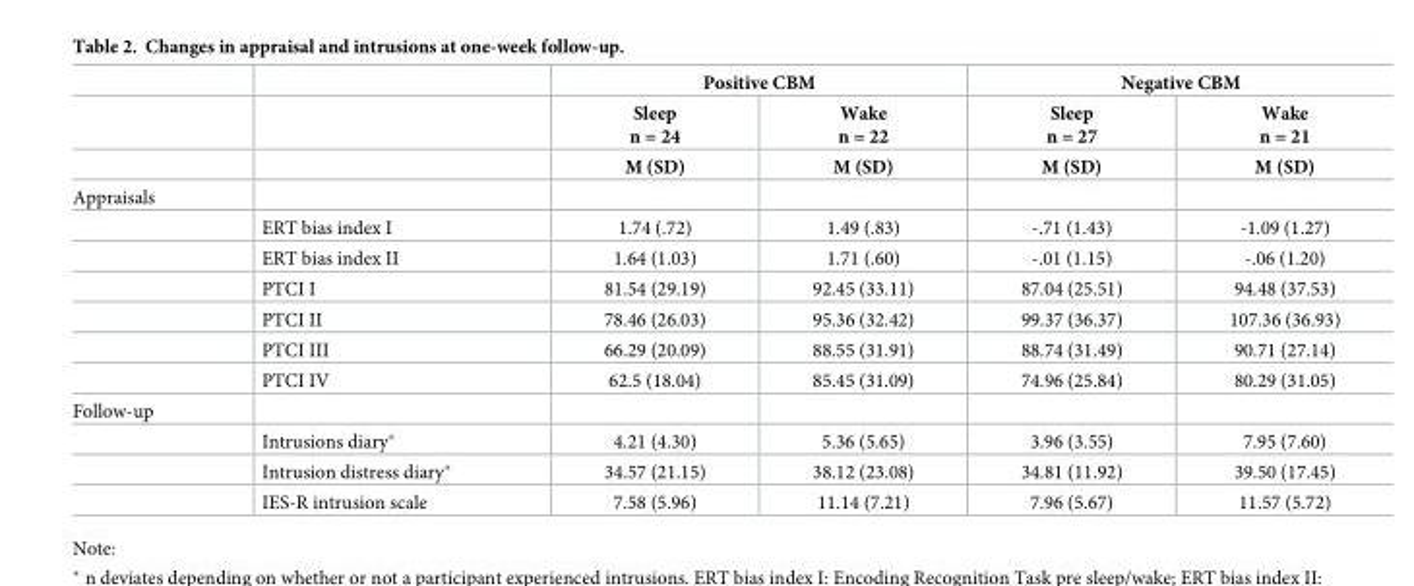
<table><thead><tr><td rowspan="3"></td><td rowspan="3"></td><td colspan="2">Positive CBM</td><td colspan="2">Negative CBM</td></tr><tr><td rowspan="2">Sleep n = 24 M (SD)</td><td rowspan="2">Wake n = 22 M (SD)</td><td rowspan="2">Sleep n = 27 M (SD)</td><td rowspan="2">Wake n = 21 M (SD)</td></tr><tr></tr></thead><tbody><tr><td colspan="6">Appraisals</td></tr><tr><td></td><td>ERT bias index I</td><td>1.74 (.72)</td><td>1.49 (.83)</td><td>-.71 (1.43)</td><td>-1.09 (1.27)</td></tr><tr><td></td><td>ERT bias index II</td><td>1.64 (1.03)</td><td>1.71 (.60)</td><td>-.01 (1.15)</td><td>-.06 (1.20)</td></tr><tr><td></td><td>PTCI I</td><td>81.54 (29.19)</td><td>92.45 (33.11)</td><td>87.04 (25.51)</td><td>94.48 (37.53)</td></tr><tr><td></td><td>PTCI II</td><td>78.46 (26.03)</td><td>95.36 (32.42)</td><td>99.37 (36.37)</td><td>107.36 (36.93)</td></tr><tr><td></td><td>PTCI III</td><td>66.29 (20.09)</td><td>88.55 (31.91)</td><td>88.74 (31.49)</td><td>90.71 (27.14)</td></tr><tr><td></td><td>PTCI IV</td><td>62.5 (18.04)</td><td>85.45 (31.09)</td><td>74.96 (25.84)</td><td>80.29 (31.05)</td></tr><tr><td colspan="6">Follow-up</td></tr><tr><td></td><td>Intrusions diary*</td><td>4.21 (4.30)</td><td>5.36 (5.65)</td><td>3.96 (3.55)</td><td>7.95 (7.60)</td></tr><tr><td></td><td>Intrusion distress diary*</td><td>34.57 (21.15)</td><td>38.12 (23.08)</td><td>34.81 (11.92)</td><td>39.50 (17.45)</td></tr><tr><td></td><td>IES-R intrusion scale</td><td>7.58 (5.96)</td><td>11.14 (7.21)</td><td>7.96 (5.67)</td><td>11.57 (5.72)</td></tr></tbody></table>